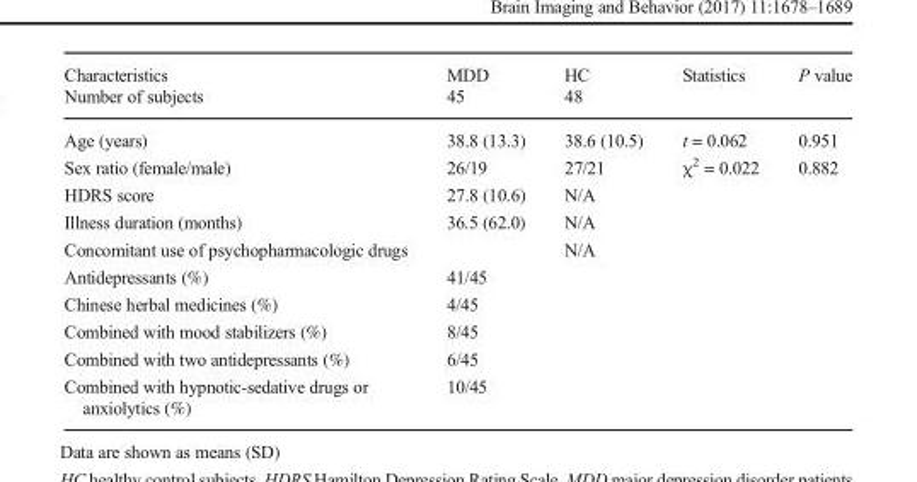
<table><thead><tr><td rowspan="2">Characteristics Number of subjects</td><td rowspan="2">MDD 45</td><td rowspan="2">HC 48</td><td rowspan="2">Statistics</td><td rowspan="2">P value</td></tr><tr></tr></thead><tbody><tr><td>Age (years)</td><td>38.8 (13.3)</td><td>38.6 (10.5)</td><td>t = 0.062</td><td>0.951</td></tr><tr><td>Sex ratio (female/male)</td><td>26/19</td><td>27/21</td><td>χ<sup>2</sup> = 0.022</td><td>0.882</td></tr><tr><td>HDRS score</td><td>27.8 (10.6)</td><td>N/A</td><td></td><td></td></tr><tr><td>Illness duration (months)</td><td>36.5 (62.0)</td><td>N/A</td><td></td><td></td></tr><tr><td>Concomitant use of psychopharmacologic drugs</td><td></td><td>N/A</td><td></td><td></td></tr><tr><td>Antidepressants (%)</td><td>41/45</td><td></td><td></td><td></td></tr><tr><td>Chinese herbal medicines (%)</td><td>4/45</td><td></td><td></td><td></td></tr><tr><td>Combined with mood stabilizers (%)</td><td>8/45</td><td></td><td></td><td></td></tr><tr><td>Combined with two antidepressants (%)</td><td>6/45</td><td></td><td></td><td></td></tr><tr><td>Combined with hypnotic-sedative drugs or anxiolytics (%)</td><td>10/45</td><td></td><td></td><td></td></tr></tbody></table>